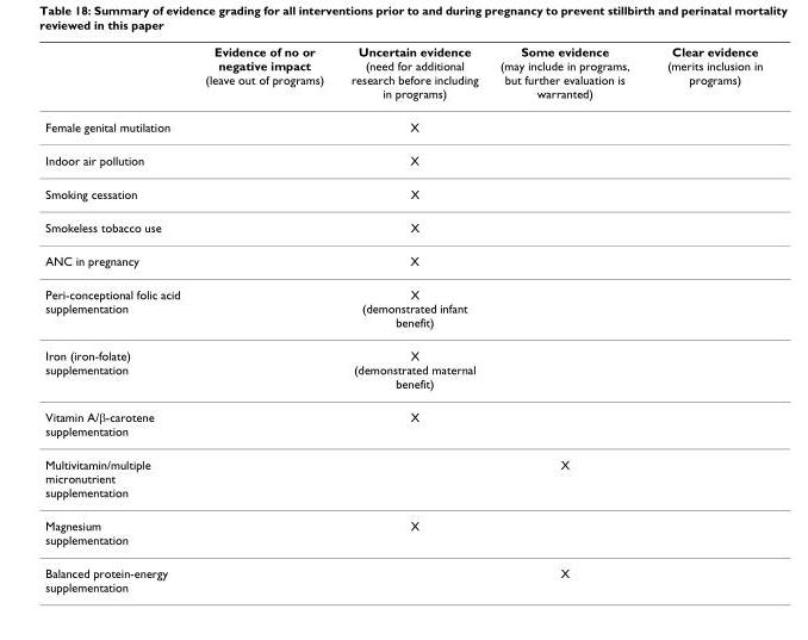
<table><thead><tr><td></td><td>Evidence of no or negative impact (leave out of programs)</td><td>Uncertain evidence (need for additional research before including in programs)</td><td>Some evidence (may include in programs, but further evaluation is warranted)</td><td>Clear evidence (merits inclusion in programs)</td></tr></thead><tbody><tr><td>Female genital mutilation</td><td></td><td>X</td><td></td><td></td></tr><tr><td>Indoor air pollution</td><td></td><td>X</td><td></td><td></td></tr><tr><td>Smoking cessation</td><td></td><td>X</td><td></td><td></td></tr><tr><td>Smokeless tobacco use</td><td></td><td>X</td><td></td><td></td></tr><tr><td>ANC in pregnancy</td><td></td><td>X</td><td></td><td></td></tr><tr><td>Peri-conceptional folic acid supplementation</td><td></td><td>X (demonstrated infant benefit)</td><td></td><td></td></tr><tr><td>Iron (iron-folate) supplementation</td><td></td><td>X (demonstrated maternal benefit)</td><td></td><td></td></tr><tr><td>Vitamin A/β-carotene supplementation</td><td></td><td>X</td><td></td><td></td></tr><tr><td>Multivitamin/multiple micronutrient supplementation</td><td></td><td></td><td>X</td><td></td></tr><tr><td>Magnesium supplementation</td><td></td><td>X</td><td></td><td></td></tr><tr><td>Balanced protein-energy supplementation</td><td></td><td></td><td>X</td><td></td></tr></tbody></table>